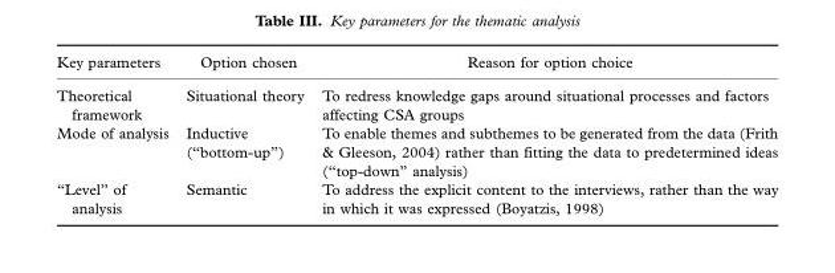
<table><thead><tr><td>Key parameters</td><td>Option chosen</td><td>Reason for option choice</td></tr></thead><tbody><tr><td>Theoretical framework</td><td>Situational theory</td><td>To redress knowledge gaps around situational processes and factors affecting CSA groups</td></tr><tr><td>Mode of analysis</td><td>Inductive (‘‘bottom-up’’)</td><td>To enable themes and subthemes to be generated from the data (Frith &amp; Gleeson, 2004) rather than fitting the data to predetermined ideas (‘‘top-down’’ analysis)</td></tr><tr><td>‘‘Level’’ of analysis</td><td>Semantic</td><td>To address the explicit content to the interviews, rather than the way in which it was expressed (Boyatzis, 1998)</td></tr></tbody></table>